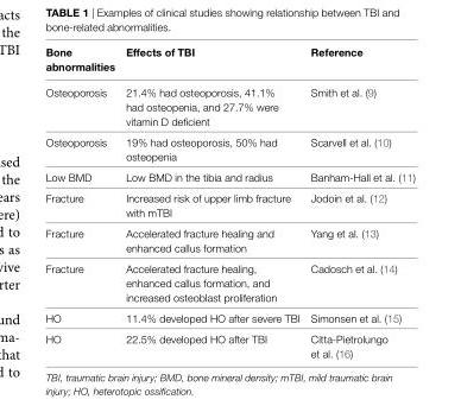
<table><thead><tr><td>Bone abnormalities</td><td>effects of TBi</td><td>Reference</td></tr></thead><tbody><tr><td>Osteoporosis</td><td>21.4% had osteoporosis, 41.1% had osteopenia, and 27.7% were vitamin D deficient</td><td>Smith et al. (9)</td></tr><tr><td>Osteoporosis</td><td>19% had osteoporosis, 50% had osteopenia</td><td>Scarvell et al. (10)</td></tr><tr><td>Low BMD</td><td>Low BMD in the tibia and radius</td><td>Banham-Hall et al. (11)</td></tr><tr><td>Fracture</td><td>Increased risk of upper limb fracture with mTBI</td><td>Jodoin et al. (12)</td></tr><tr><td>Fracture</td><td>Accelerated fracture healing and enhanced callus formation</td><td>Yang et al. (13)</td></tr><tr><td>Fracture</td><td>Accelerated fracture healing, enhanced callus formation, and increased osteoblast proliferation</td><td>Cadosch et al. (14)</td></tr><tr><td>HO</td><td>11.4% developed HO after severe TBI</td><td>Simonsen et al. (15)</td></tr><tr><td>HO</td><td>22.5% developed HO after TBI</td><td>Citta-Pietrolungo et al. (16)</td></tr></tbody></table>